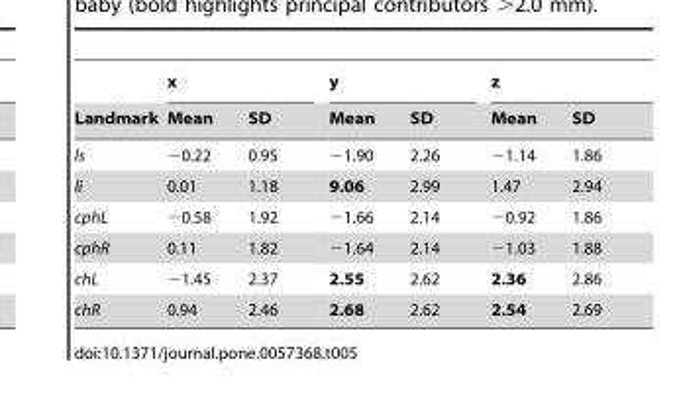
<table><thead><tr><td rowspan="2">Landmark</td><td colspan="2">x</td><td colspan="2">y</td><td colspan="2">z</td></tr><tr><td>Mean</td><td>SD</td><td>Mean</td><td>SD</td><td>Mean</td><td>SD</td></tr></thead><tbody><tr><td>ls</td><td>−0.22</td><td>0.95</td><td>−1.90</td><td>2.26</td><td>−1.14</td><td>1.86</td></tr><tr><td>li</td><td>0.01</td><td>1.18</td><td>9.06</td><td>2.99</td><td>1.47</td><td>2.94</td></tr><tr><td>cphL</td><td>−0.58</td><td>1.92</td><td>−1.66</td><td>2.14</td><td>−0.92</td><td>1.86</td></tr><tr><td>cphR</td><td>0.11</td><td>1.82</td><td>−1.64</td><td>2.14</td><td>−1.03</td><td>1.88</td></tr><tr><td>chL</td><td>−1.45</td><td>2.37</td><td>2.55</td><td>2.62</td><td>2.36</td><td>2.86</td></tr><tr><td>chR</td><td>0.94</td><td>2.46</td><td>2.68</td><td>2.62</td><td>2.54</td><td>2.69</td></tr></tbody></table>